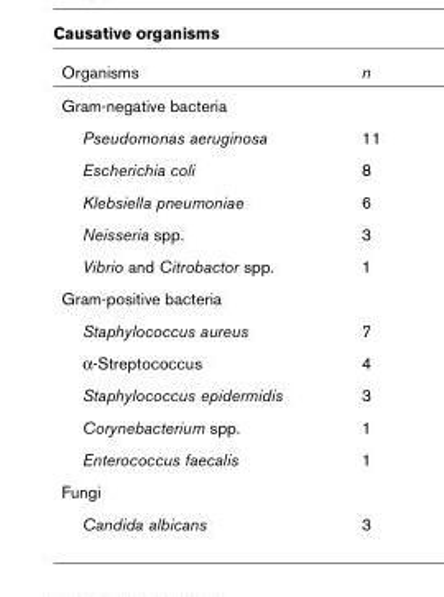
<table><thead><tr><td>Organisms</td><td>n</td></tr></thead><tbody><tr><td colspan="2">Gram-negative bacteria</td></tr><tr><td>Pseudomonas aeruginosa</td><td>11</td></tr><tr><td>Escherichia coli</td><td>8</td></tr><tr><td>Klebsiella pneumoniae</td><td>6</td></tr><tr><td>Neisseria spp.</td><td>3</td></tr><tr><td>Vibrio and Citrobactor spp.</td><td>1</td></tr><tr><td colspan="2">Gram-positive bacteria</td></tr><tr><td>Staphylococcus aureus</td><td>7</td></tr><tr><td>α-Streptococcus</td><td>4</td></tr><tr><td>Staphylococcus epidermidis</td><td>3</td></tr><tr><td>Corynebacterium spp.</td><td>1</td></tr><tr><td>Enterococcus faecalis</td><td>1</td></tr><tr><td colspan="2">Fungi</td></tr><tr><td>Candida albicans</td><td>3</td></tr></tbody></table>